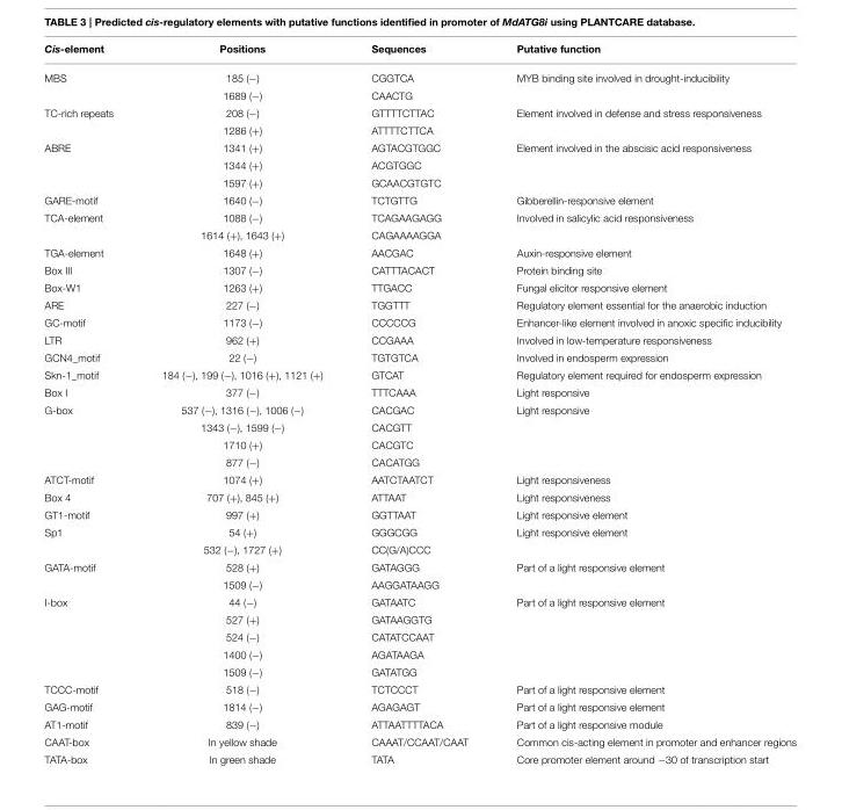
<table><thead><tr><td>Cis-element</td><td>Positions</td><td>Sequences</td><td>Putative function</td></tr></thead><tbody><tr><td rowspan="2">MBS</td><td>185 (−)</td><td>CGGTCA</td><td>MYB binding site involved in drought-inducibility</td></tr><tr><td>1689 (−)</td><td>CAACTG</td><td></td></tr><tr><td rowspan="2">TC-rich repeats</td><td>208 (−)</td><td>GTTTTCTTAC</td><td>Element involved in defense and stress responsiveness</td></tr><tr><td>1286 (+)</td><td>ATTTTCTTCA</td><td></td></tr><tr><td rowspan="3">ABRE</td><td>1341 (+)</td><td>AGTACGTGGC</td><td>Element involved in the abscisic acid responsiveness</td></tr><tr><td>1344 (+)</td><td>ACGTGGC</td><td></td></tr><tr><td>1597 (+)</td><td>GCAACGTGTC</td><td></td></tr><tr><td>GARE-motif</td><td>1640 (−)</td><td>TCTGTTG</td><td>Gibberellin-responsive element</td></tr><tr><td rowspan="2">TCA-element</td><td>1088 (−)</td><td>TCAGAAGAGG</td><td>Involved in salicylic acid responsiveness</td></tr><tr><td>1614 (+), 1643 (+)</td><td>CAGAAAAGGA</td><td></td></tr><tr><td>TGA-element</td><td>1648 (+)</td><td>AACGAC</td><td>Auxin-responsive element</td></tr><tr><td>Box III</td><td>1307 (−)</td><td>CATTTACACT</td><td>Protein binding site</td></tr><tr><td>Box-W1</td><td>1263 (+)</td><td>TTGACC</td><td>Fungal elicitor responsive element</td></tr><tr><td>ARE</td><td>227 (−)</td><td>TGGTTT</td><td>Regulatory element essential for the anaerobic induction</td></tr><tr><td>GC-motif</td><td>1173 (−)</td><td>CCCCCG</td><td>Enhancer-like element involved in anoxic specific inducibility</td></tr><tr><td>LTR</td><td>962 (+)</td><td>CCGAAA</td><td>Involved in low-temperature responsiveness</td></tr><tr><td>GCN4_motif</td><td>22 (−)</td><td>TGTGTCA</td><td>Involved in endosperm expression</td></tr><tr><td>Skn-1_motif</td><td>184 (−), 199 (−), 1016 (+), 1121 (+)</td><td>GTCAT</td><td>Regulatory element required for endosperm expression</td></tr><tr><td>Box I</td><td>377 (−)</td><td>TTTCAAA</td><td>Light responsive</td></tr><tr><td rowspan="4">G-box</td><td>537 (−), 1316 (−), 1006 (−)</td><td>CACGAC</td><td>Light responsive</td></tr><tr><td>1343 (−), 1599 (−)</td><td>CACGTT</td><td></td></tr><tr><td>1710 (+)</td><td>CACGTC</td><td></td></tr><tr><td>877 (−)</td><td>CACATGG</td><td></td></tr><tr><td>ATCT-motif</td><td>1074 (+)</td><td>AATCTAATCT</td><td>Light responsiveness</td></tr><tr><td>Box 4</td><td>707 (+), 845 (+)</td><td>ATTAAT</td><td>Light responsiveness</td></tr><tr><td>GT1-motif</td><td>997 (+)</td><td>GGTTAAT</td><td>Light responsive element</td></tr><tr><td rowspan="2">Sp1</td><td>54 (+)</td><td>GGGCGG</td><td>Light responsive element</td></tr><tr><td>532 (−), 1727 (+)</td><td>CC(G/A)CCC</td><td></td></tr><tr><td rowspan="2">GATA-motif</td><td>528 (+)</td><td>GATAGGG</td><td>Part of a light responsive element</td></tr><tr><td>1509 (−)</td><td>AAGGATAAGG</td><td></td></tr><tr><td rowspan="5">I-box</td><td>44 (−)</td><td>GATAATC</td><td>Part of a light responsive element</td></tr><tr><td>527 (+)</td><td>GATAAGGTG</td><td></td></tr><tr><td>524 (−)</td><td>CATATCCAAT</td><td></td></tr><tr><td>1400 (−)</td><td>AGATAAGA</td><td></td></tr><tr><td>1509 (−)</td><td>GATATGG</td><td></td></tr><tr><td>TCCC-motif</td><td>518 (−)</td><td>TCTCCCT</td><td>Part of a light responsive element</td></tr><tr><td>GAG-motif</td><td>1814 (−)</td><td>AGAGAGT</td><td>Part of a light responsive element</td></tr><tr><td>AT1-motif</td><td>839 (−)</td><td>ATTAATTTTACA</td><td>Part of a light responsive module</td></tr><tr><td>CAAT-box</td><td>In yellow shade</td><td>CAAAT/CCAAT/CAAT</td><td>Common cis-acting element in promoter and enhancer regions</td></tr><tr><td>TATA-box</td><td>In green shade</td><td>TATA</td><td>Core promoter element around −30 of transcription start</td></tr></tbody></table>